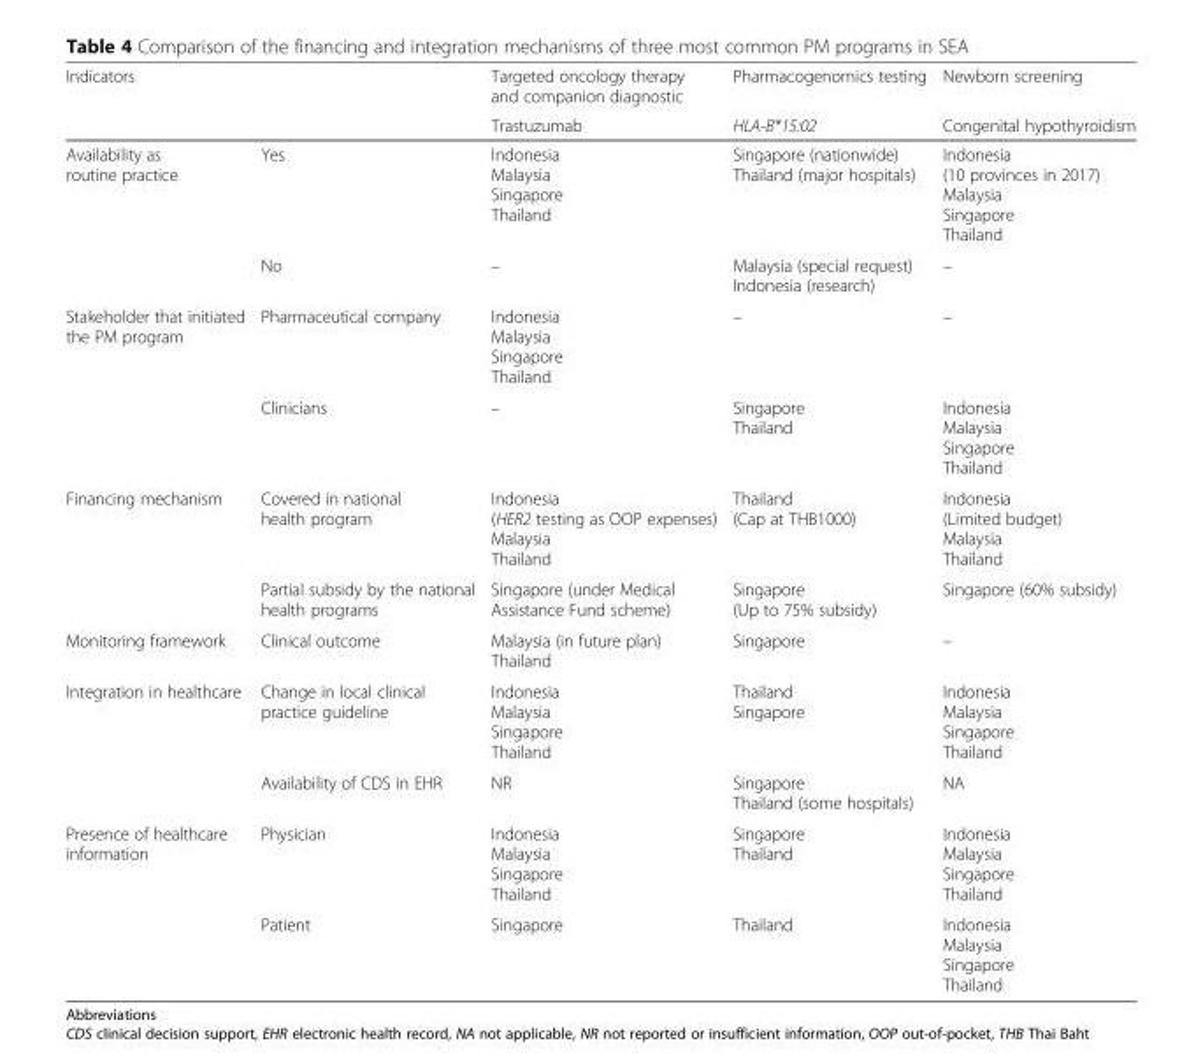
<table><thead><tr><td rowspan="2">Indicators</td><td rowspan="2"></td><td rowspan="2">Targeted oncology therapy and companion diagnostic Trastuzumab</td><td rowspan="2">Pharmacogenomics testing HLA-B*15:02</td><td rowspan="2">Newborn screening Congenital hypothyroidism</td></tr><tr></tr></thead><tbody><tr><td rowspan="2">Availability as routine practice</td><td>Yes</td><td>Indonesia Malaysia Singapore Thailand</td><td>Singapore (nationwide) Thailand (major hospitals)</td><td>Indonesia (10 provinces in 2017) Malaysia Singapore Thailand</td></tr><tr><td>No</td><td>–</td><td>Malaysia (special request) Indonesia (research)</td><td>–</td></tr><tr><td rowspan="2">Stakeholder that initiated the PM program</td><td>Pharmaceutical company</td><td>Indonesia Malaysia Singapore Thailand</td><td>–</td><td>–</td></tr><tr><td>Clinicians</td><td>–</td><td>Singapore Thailand</td><td>Indonesia Malaysia Singapore Thailand</td></tr><tr><td rowspan="2">Financing mechanism</td><td>Covered in national health program</td><td>Indonesia (HER2 testing as OOP expenses) Malaysia Thailand</td><td>Thailand (Cap at THB1000)</td><td>Indonesia (Limited budget) Malaysia Thailand</td></tr><tr><td>Partial subsidy by the national health programs</td><td>Singapore (under Medical Assistance Fund scheme)</td><td>Singapore (Up to 75% subsidy)</td><td>Singapore (60% subsidy)</td></tr><tr><td>Monitoring framework</td><td>Clinical outcome</td><td>Malaysia (in future plan) Thailand</td><td>Singapore</td><td>–</td></tr><tr><td rowspan="2">Integration in healthcare</td><td>Change in local clinical practice guideline</td><td>Indonesia Malaysia Singapore Thailand</td><td>Thailand Singapore</td><td>Indonesia Malaysia Singapore Thailand</td></tr><tr><td>Availability of CDS in EHR</td><td>NR</td><td>Singapore Thailand (some hospitals)</td><td>NA</td></tr><tr><td rowspan="2">Presence of healthcare information</td><td>Physician</td><td>Indonesia Malaysia Singapore Thailand</td><td>Singapore Thailand</td><td>Indonesia Malaysia Singapore Thailand</td></tr><tr><td>Patient</td><td>Singapore</td><td>Thailand</td><td>Indonesia Malaysia Singapore Thailand</td></tr></tbody></table>